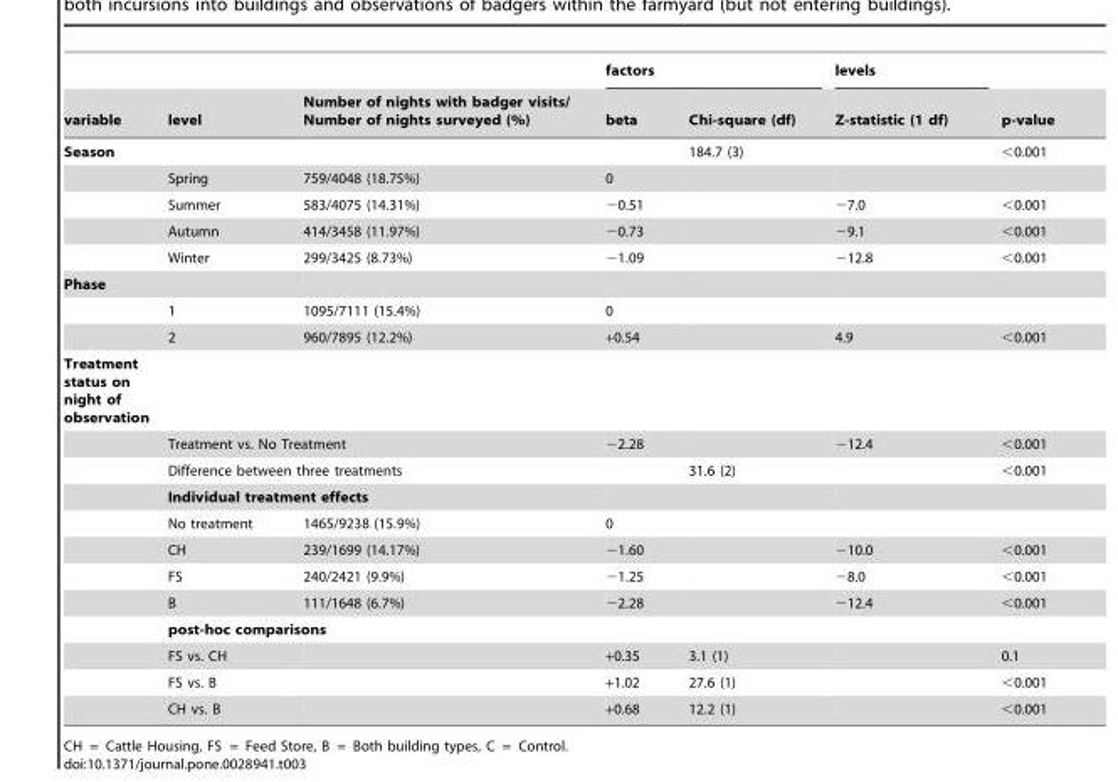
<table><thead><tr><td rowspan="2">variable</td><td rowspan="2">level</td><td rowspan="2">Number of nights with badger visits/ Number of nights surveyed (%)</td><td colspan="2">factors</td><td rowspan="2">levels Z-statistic (1 df)</td><td rowspan="2">p-value</td></tr><tr><td>beta</td><td>Chi-square (df)</td></tr></thead><tbody><tr><td rowspan="5">Season</td><td></td><td></td><td></td><td>184.7 (3)</td><td></td><td>&lt;0.001</td></tr><tr><td>Spring</td><td>759/4048 (18.75%)</td><td>0</td><td></td><td></td><td></td></tr><tr><td>Summer</td><td>583/4075 (14.31%)</td><td>−0.51</td><td></td><td>−7.0</td><td>&lt;0.001</td></tr><tr><td>Autumn</td><td>414/3458 (11.97%)</td><td>−0.73</td><td></td><td>−9.1</td><td>&lt;0.001</td></tr><tr><td>Winter</td><td>299/3425 (8.73%)</td><td>−1.09</td><td></td><td>−12.8</td><td>&lt;0.001</td></tr><tr><td colspan="7">Phase</td></tr><tr><td></td><td>1</td><td>1095/7111 (15.4%)</td><td>0</td><td></td><td></td><td></td></tr><tr><td></td><td>2</td><td>960/7895 (12.2%)</td><td>+0.54</td><td></td><td>4.9</td><td>&lt;0.001</td></tr><tr><td colspan="7">Treatment status on night of observation</td></tr><tr><td></td><td colspan="2">Treatment vs. No Treatment</td><td>−2.28</td><td></td><td>−12.4</td><td>&lt;0.001</td></tr><tr><td></td><td colspan="2">Difference between three treatments</td><td></td><td>31.6 (2)</td><td></td><td>&lt;0.001</td></tr><tr><td></td><td colspan="2">Individual treatment effects</td><td></td><td></td><td></td><td></td></tr><tr><td></td><td>No treatment</td><td>1465/9238 (15.9%)</td><td>0</td><td></td><td></td><td></td></tr><tr><td></td><td>CH</td><td>239/1699 (14.17%)</td><td>−1.60</td><td></td><td>−10.0</td><td>&lt;0.001</td></tr><tr><td></td><td>FS</td><td>240/2421 (9.9%)</td><td>−1.25</td><td></td><td>−8.0</td><td>&lt;0.001</td></tr><tr><td></td><td>B</td><td>111/1648 (6.7%)</td><td>−2.28</td><td></td><td>−12.4</td><td>&lt;0.001</td></tr><tr><td></td><td colspan="2">post-hoc comparisons</td><td></td><td></td><td></td><td></td></tr><tr><td></td><td>FS vs. CH</td><td></td><td>+0.35</td><td>3.1 (1)</td><td></td><td>0.1</td></tr><tr><td></td><td>FS vs. B</td><td></td><td>+1.02</td><td>27.6 (1)</td><td></td><td>&lt;0.001</td></tr><tr><td></td><td>CH vs. B</td><td></td><td>+0.68</td><td>12.2 (1)</td><td></td><td>&lt;0.001</td></tr></tbody></table>